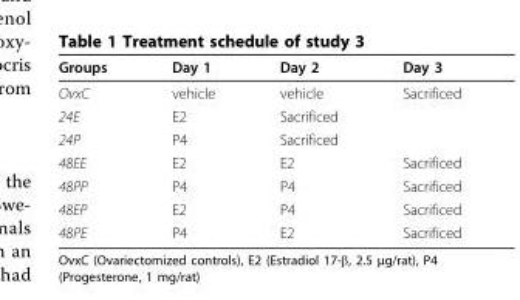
<table><thead><tr><td>Groups</td><td>Day 1</td><td>Day 2</td><td>Day 3</td></tr></thead><tbody><tr><td>OvxC</td><td>vehicle</td><td>vehicle</td><td>Sacrificed</td></tr><tr><td>24E</td><td>E2</td><td>Sacrificed</td><td></td></tr><tr><td>24P</td><td>P4</td><td>Sacrificed</td><td></td></tr><tr><td>48EE</td><td>E2</td><td>E2</td><td>Sacrificed</td></tr><tr><td>48PP</td><td>P4</td><td>P4</td><td>Sacrificed</td></tr><tr><td>48EP</td><td>E2</td><td>P4</td><td>Sacrificed</td></tr><tr><td>48PE</td><td>P4</td><td>E2</td><td>Sacrificed</td></tr></tbody></table>